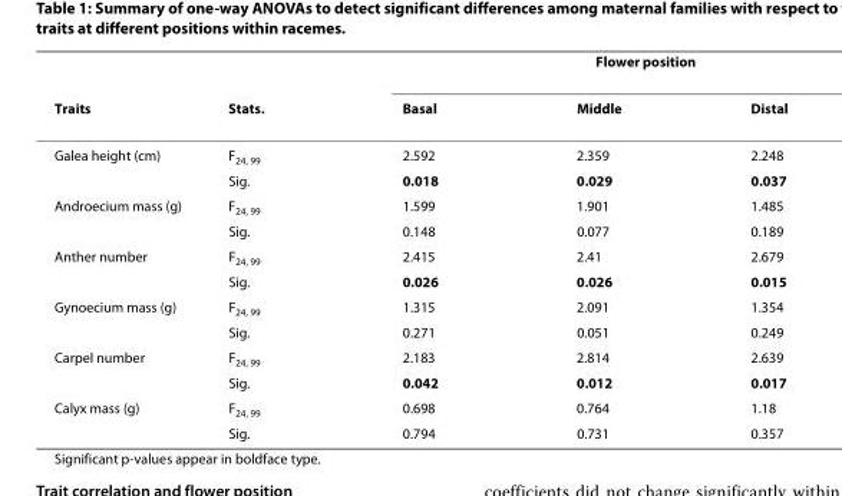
<table><thead><tr><td rowspan="2">Traits</td><td rowspan="2">Stats.</td><td colspan="3">Flower position</td></tr><tr><td>Basal</td><td>Middle</td><td>Distal</td></tr></thead><tbody><tr><td rowspan="2">Galea height (cm)</td><td>F<sub>24, 99</sub></td><td>2.592</td><td>2.359</td><td>2.248</td></tr><tr><td>Sig.</td><td>0.018</td><td>0.029</td><td>0.037</td></tr><tr><td rowspan="2">Androecium mass (g)</td><td>F<sub>24, 99</sub></td><td>1.599</td><td>1.901</td><td>1.485</td></tr><tr><td>Sig.</td><td>0.148</td><td>0.077</td><td>0.189</td></tr><tr><td rowspan="2">Anther number</td><td>F<sub>24, 99</sub></td><td>2.415</td><td>2.41</td><td>2.679</td></tr><tr><td>Sig.</td><td>0.026</td><td>0.026</td><td>0.015</td></tr><tr><td rowspan="2">Gynoecium mass (g)</td><td>F<sub>24, 99</sub></td><td>1.315</td><td>2.091</td><td>1.354</td></tr><tr><td>Sig.</td><td>0.271</td><td>0.051</td><td>0.249</td></tr><tr><td rowspan="2">Carpel number</td><td>F<sub>24, 99</sub></td><td>2.183</td><td>2.814</td><td>2.639</td></tr><tr><td>Sig.</td><td>0.042</td><td>0.012</td><td>0.017</td></tr><tr><td rowspan="2">Calyx mass (g)</td><td>F<sub>24, 99</sub></td><td>0.698</td><td>0.764</td><td>1.18</td></tr><tr><td>Sig.</td><td>0.794</td><td>0.731</td><td>0.357</td></tr></tbody></table>